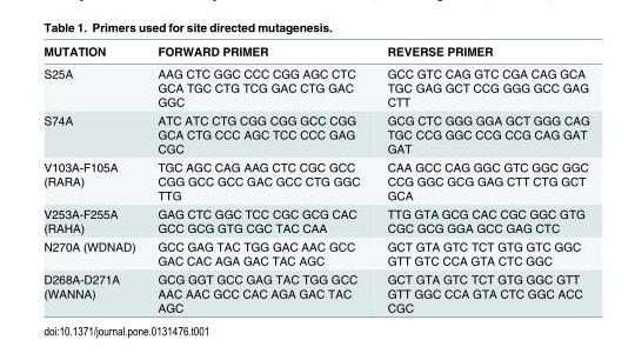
<table><thead><tr><td>MUTATION</td><td>FORWARD PRIMER</td><td>REVERSE PRIMER</td></tr></thead><tbody><tr><td>S25A</td><td>AAG CTC GGC CCC CGG AGC CTC GCA TGC CTG TCG GAC CTG GAC GGC</td><td>GCC GTC CAG GTC CGA CAG GCA TGC GAG GCT CCG GGG GCC GAG CTT</td></tr><tr><td>S74A</td><td>ATC ATC CTG CGG CGG GCC CGG GCA CTG CCC AGC TCC CCC GAG CGC</td><td>GCG CTC GGG GGA GCT GGG CAG TGC CCG GGC CCG CCG CAG GAT GAT</td></tr><tr><td>V103A-F105A (RARA)</td><td>TGC AGC CAG AAG CTC CGC GCC CGG GCC GCC GAC GCC CTG GGC TTG</td><td>CAA GCC CAG GGC GTC GGC GGC CCG GGC GCG GAG CTT CTG GCT GCA</td></tr><tr><td>V253A-F255A (RAHA)</td><td>GAG CTC GGC TCC CGC GCG CAC GCC GCG GTG CGC TAC CAA</td><td>TTG GTA GCG CAC CGC GGC GTG CGC GCG GGA GCC GAG CTC</td></tr><tr><td>N270A (WDNAD)</td><td>GCC GAG TAC TGG GAC AAC GCC GAC CAC AGA GAC TAC AGC</td><td>GCT GTA GTC TCT GTG GTC GGC GTT GTC CCA GTA CTC GGC</td></tr><tr><td>D268A-D271A (WANNA)</td><td>GCG GGT GCC GAG TAC TGG GCC AAC AAC GCC CAC AGA GAC TAC AGC</td><td>GCT GTA GTC TCT GTG GGC GTT GTT GGC CCA GTA CTC GGC ACC CGC</td></tr></tbody></table>